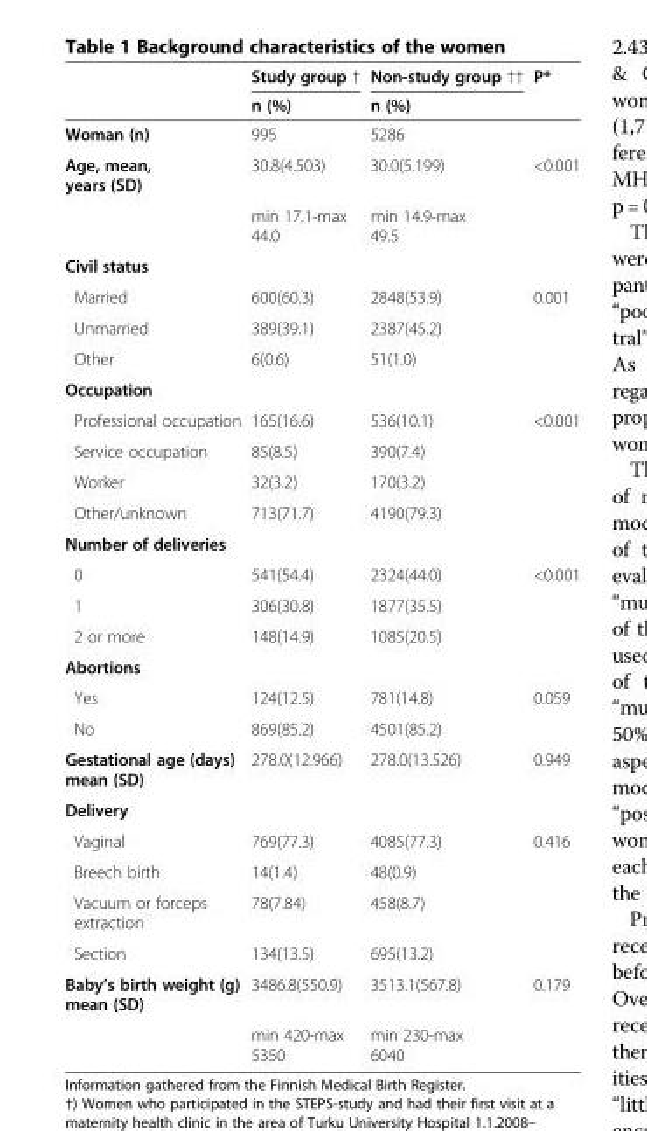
<table><thead><tr><td rowspan="2"></td><td rowspan="2">Study group † n (%)</td><td rowspan="2">Non-study group †† n (%)</td><td rowspan="2">P*</td></tr><tr></tr></thead><tbody><tr><td>Woman (n)</td><td>995</td><td>5286</td><td></td></tr><tr><td rowspan="2">Age, mean, years (SD)</td><td>30.8(4.503)</td><td>30.0(5.199)</td><td>&lt;0.001</td></tr><tr><td>min 17.1-max 44.0</td><td>min 14.9-max 49.5</td><td></td></tr><tr><td colspan="4">Civil status</td></tr><tr><td>Married</td><td>600(60.3)</td><td>2848(53.9)</td><td>0.001</td></tr><tr><td>Unmarried</td><td>389(39.1)</td><td>2387(45.2)</td><td></td></tr><tr><td>Other</td><td>6(0.6)</td><td>51(1.0)</td><td></td></tr><tr><td colspan="4">Occupation</td></tr><tr><td>Professional occupation</td><td>165(16.6)</td><td>536(10.1)</td><td>&lt;0.001</td></tr><tr><td>Service occupation</td><td>85(8.5)</td><td>390(7.4)</td><td></td></tr><tr><td>Worker</td><td>32(3.2)</td><td>170(3.2)</td><td></td></tr><tr><td>Other/unknown</td><td>713(71.7)</td><td>4190(79.3)</td><td></td></tr><tr><td colspan="4">Number of deliveries</td></tr><tr><td>0</td><td>541(54.4)</td><td>2324(44.0)</td><td>&lt;0.001</td></tr><tr><td>1</td><td>306(30.8)</td><td>1877(35.5)</td><td></td></tr><tr><td>2 or more</td><td>148(14.9)</td><td>1085(20.5)</td><td></td></tr><tr><td colspan="4">Abortions</td></tr><tr><td>Yes</td><td>124(12.5)</td><td>781(14.8)</td><td>0.059</td></tr><tr><td>No</td><td>869(85.2)</td><td>4501(85.2)</td><td></td></tr><tr><td>Gestational age (days) mean (SD)</td><td>278.0(12.966)</td><td>278.0(13.526)</td><td>0.949</td></tr><tr><td colspan="4">Delivery</td></tr><tr><td>Vaginal</td><td>769(77.3)</td><td>4085(77.3)</td><td>0.416</td></tr><tr><td>Breech birth</td><td>14(1.4)</td><td>48(0.9)</td><td></td></tr><tr><td>Vacuum or forceps extraction</td><td>78(7.84)</td><td>458(8.7)</td><td></td></tr><tr><td>Section</td><td>134(13.5)</td><td>695(13.2)</td><td></td></tr><tr><td rowspan="2">Baby’s birth weight (g) mean (SD)</td><td>3486.8(550.9)</td><td>3513.1(567.8)</td><td>0.179</td></tr><tr><td>min 420-max 5350</td><td>min 230-max 6040</td><td></td></tr></tbody></table>